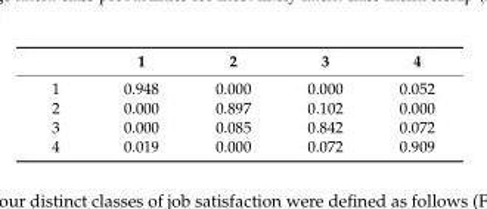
<table><thead><tr><td></td><td>1</td><td>2</td><td>3</td><td>4</td></tr></thead><tbody><tr><td>1</td><td>0.948</td><td>0.000</td><td>0.000</td><td>0.052</td></tr><tr><td>2</td><td>0.000</td><td>0.897</td><td>0.102</td><td>0.000</td></tr><tr><td>3</td><td>0.000</td><td>0.085</td><td>0.842</td><td>0.072</td></tr><tr><td>4</td><td>0.019</td><td>0.000</td><td>0.072</td><td>0.909</td></tr></tbody></table>